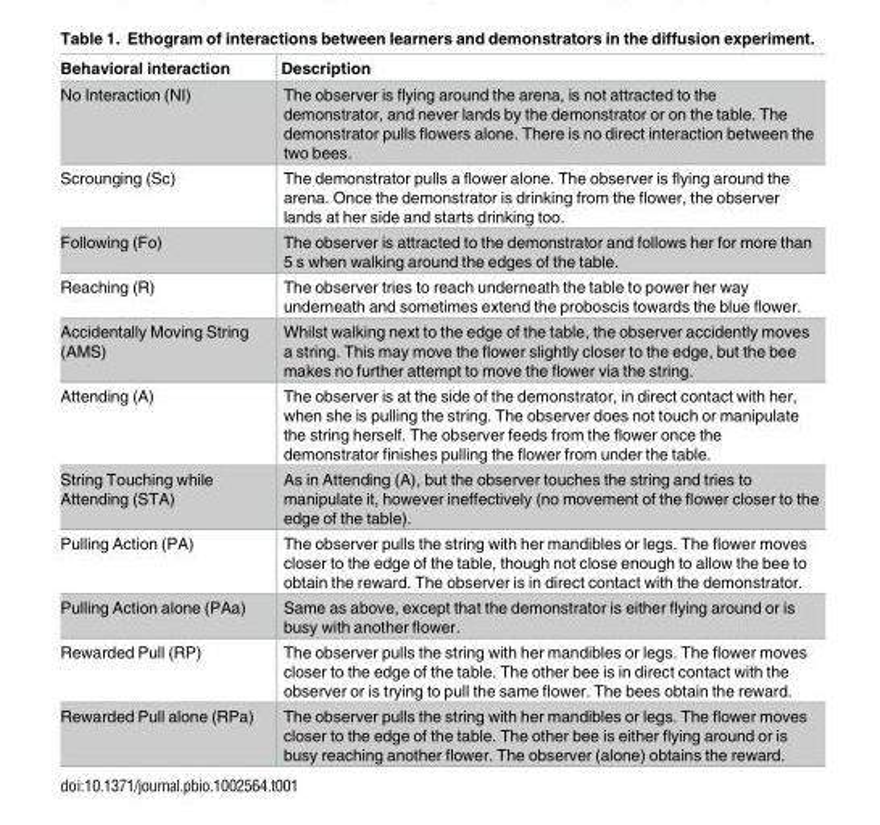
<table><thead><tr><td>Behavioral interaction</td><td>Description</td></tr></thead><tbody><tr><td>No Interaction (NI)</td><td>The observer is flying around the arena, is not attracted to the demonstrator, and never lands by the demonstrator or on the table. The demonstrator pulls flowers alone. There is no direct interaction between the two bees.</td></tr><tr><td>Scrounging (Sc)</td><td>The demonstrator pulls a flower alone. The observer is flying around the arena. Once the demonstrator is drinking from the flower, the observer lands at her side and starts drinking too.</td></tr><tr><td>Following (Fo)</td><td>The observer is attracted to the demonstrator and follows her for more than 5 s when walking around the edges of the table.</td></tr><tr><td>Reaching (R)</td><td>The observer tries to reach underneath the table to power her way underneath and sometimes extend the proboscis towards the blue flower.</td></tr><tr><td>Accidentally Moving String (AMS)</td><td>Whilst walking next to the edge of the table, the observer accidently moves a string. This may move the flower slightly closer to the edge, but the bee makes no further attempt to move the flower via the string.</td></tr><tr><td>Attending (A)</td><td>The observer is at the side of the demonstrator, in direct contact with her, when she is pulling the string. The observer does not touch or manipulate the string herself. The observer feeds from the flower once the demonstrator finishes pulling the flower from under the table.</td></tr><tr><td>String Touching while Attending (STA)</td><td>As in Attending (A), but the observer touches the string and tries to manipulate it, however ineffectively (no movement of the flower closer to the edge of the table).</td></tr><tr><td>Pulling Action (PA)</td><td>The observer pulls the string with her mandibles or legs. The flower moves closer to the edge of the table, though not close enough to allow the bee to obtain the reward. The observer is in direct contact with the demonstrator.</td></tr><tr><td>Pulling Action alone (PAa)</td><td>Same as above, except that the demonstrator is either flying around or is busy with another flower.</td></tr><tr><td>Rewarded Pull (RP)</td><td>The observer pulls the string with her mandibles or legs. The flower moves closer to the edge of the table. The other bee is in direct contact with the observer or is trying to pull the same flower. The bees obtain the reward.</td></tr><tr><td>Rewarded Pull alone (RPa)</td><td>The observer pulls the string with her mandibles or legs. The flower moves closer to the edge of the table. The other bee is either flying around or is busy reaching another flower. The observer (alone) obtains the reward.</td></tr></tbody></table>